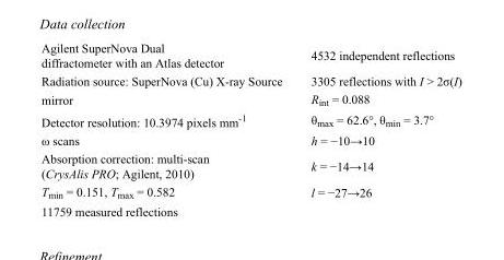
<table><tbody><tr><td>Agilent SuperNova Dual diffractometer with an Atlas detector</td><td>4532 independent reflections</td></tr><tr><td>Radiation source: SuperNova (Cu) X-ray Source</td><td>3305 reflections with I &gt; 2σ(I)</td></tr><tr><td>mirror</td><td>R<sub>int</sub> = 0.088</td></tr><tr><td>Detector resolution: 10.3974 pixels mm<sup>-1</sup></td><td>θ<sub>max</sub> = 62.6°, θ<sub>min</sub> = 3.7°</td></tr><tr><td>ω scans</td><td>h = −10→10</td></tr><tr><td>Absorption correction: multi-scan (CrysAlis PRO; Agilent, 2010)</td><td>k = −14→14</td></tr><tr><td>T<sub>min</sub> = 0.151, T<sub>max</sub> = 0.582</td><td>l = −27→26</td></tr><tr><td>11759 measured reflections</td><td></td></tr></tbody></table>